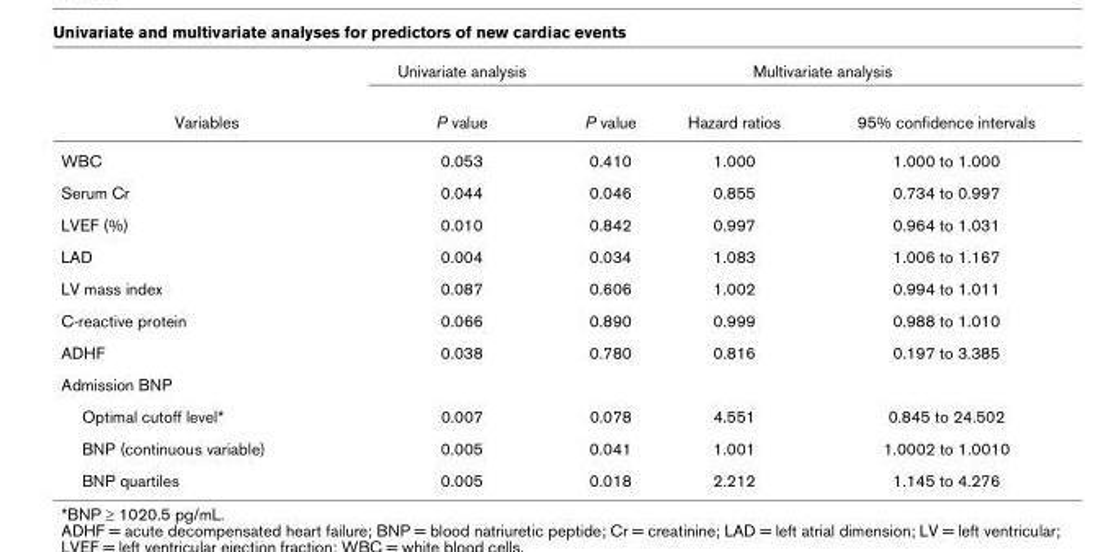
<table><thead><tr><td rowspan="2">Variables</td><td rowspan="2">Univariate analysis P value</td><td colspan="3">Multivariate analysis</td></tr><tr><td>P value</td><td>Hazard ratios</td><td>95% confidence intervals</td></tr></thead><tbody><tr><td>WBC</td><td>0.053</td><td>0.410</td><td>1.000</td><td>1.000 to 1.000</td></tr><tr><td>Serum Cr</td><td>0.044</td><td>0.046</td><td>0.855</td><td>0.734 to 0.997</td></tr><tr><td>LVEF (%)</td><td>0.010</td><td>0.842</td><td>0.997</td><td>0.964 to 1.031</td></tr><tr><td>LAD</td><td>0.004</td><td>0.034</td><td>1.083</td><td>1.006 to 1.167</td></tr><tr><td>LV mass index</td><td>0.087</td><td>0.606</td><td>1.002</td><td>0.994 to 1.011</td></tr><tr><td>C-reactive protein</td><td>0.066</td><td>0.890</td><td>0.999</td><td>0.988 to 1.010</td></tr><tr><td>ADHF</td><td>0.038</td><td>0.780</td><td>0.816</td><td>0.197 to 3.385</td></tr><tr><td colspan="5">Admission BNP</td></tr><tr><td>Optimal cutoff level*</td><td>0.007</td><td>0.078</td><td>4.551</td><td>0.845 to 24.502</td></tr><tr><td>BNP (continuous variable)</td><td>0.005</td><td>0.041</td><td>1.001</td><td>1.0002 to 1.0010</td></tr><tr><td>BNP quartiles</td><td>0.005</td><td>0.018</td><td>2.212</td><td>1.145 to 4.276</td></tr></tbody></table>